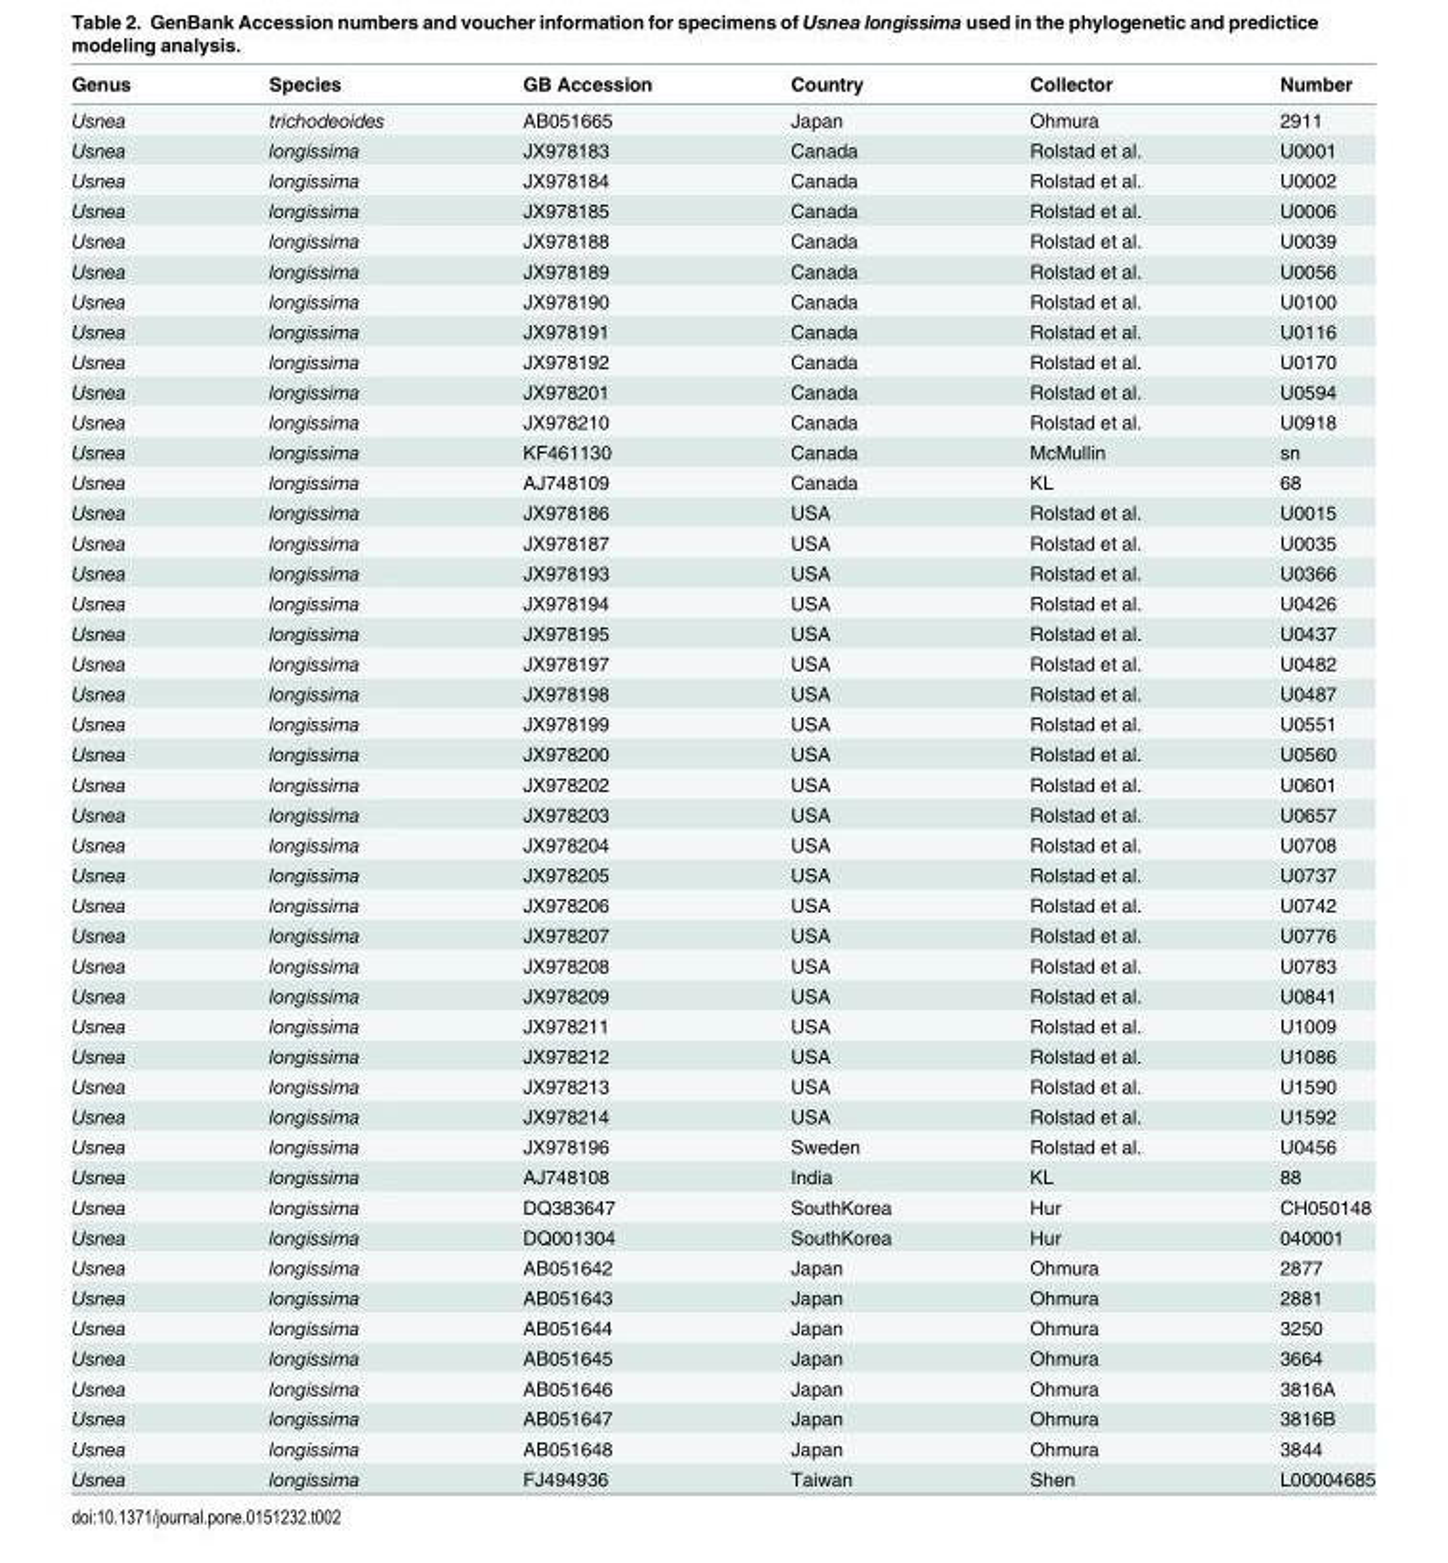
<table><thead><tr><td>Genus</td><td>Species</td><td>GB Accession</td><td>Country</td><td>Collector</td><td>Number</td></tr></thead><tbody><tr><td>Usnea</td><td>trichodeoides</td><td>AB051665</td><td>Japan</td><td>Ohmura</td><td>2911</td></tr><tr><td>Usnea</td><td>longissima</td><td>JX978183</td><td>Canada</td><td>Rolstad et al.</td><td>U0001</td></tr><tr><td>Usnea</td><td>longissima</td><td>JX978184</td><td>Canada</td><td>Rolstad et al.</td><td>U0002</td></tr><tr><td>Usnea</td><td>longissima</td><td>JX978185</td><td>Canada</td><td>Rolstad et al.</td><td>U0006</td></tr><tr><td>Usnea</td><td>longissima</td><td>JX978188</td><td>Canada</td><td>Rolstad et al.</td><td>U0039</td></tr><tr><td>Usnea</td><td>longissima</td><td>JX978189</td><td>Canada</td><td>Rolstad et al.</td><td>U0056</td></tr><tr><td>Usnea</td><td>longissima</td><td>JX978190</td><td>Canada</td><td>Rolstad et al.</td><td>U0100</td></tr><tr><td>Usnea</td><td>longissima</td><td>JX978191</td><td>Canada</td><td>Rolstad et al.</td><td>U0116</td></tr><tr><td>Usnea</td><td>longissima</td><td>JX978192</td><td>Canada</td><td>Rolstad et al.</td><td>U0170</td></tr><tr><td>Usnea</td><td>longissima</td><td>JX978201</td><td>Canada</td><td>Rolstad et al.</td><td>U0594</td></tr><tr><td>Usnea</td><td>longissima</td><td>JX978210</td><td>Canada</td><td>Rolstad et al.</td><td>U0918</td></tr><tr><td>Usnea</td><td>longissima</td><td>KF461130</td><td>Canada</td><td>McMullin</td><td>sn</td></tr><tr><td>Usnea</td><td>longissima</td><td>AJ748109</td><td>Canada</td><td>KL</td><td>68</td></tr><tr><td>Usnea</td><td>longissima</td><td>JX978186</td><td>USA</td><td>Rolstad et al.</td><td>U0015</td></tr><tr><td>Usnea</td><td>longissima</td><td>JX978187</td><td>USA</td><td>Rolstad et al.</td><td>U0035</td></tr><tr><td>Usnea</td><td>longissima</td><td>JX978193</td><td>USA</td><td>Rolstad et al.</td><td>U0366</td></tr><tr><td>Usnea</td><td>longissima</td><td>JX978194</td><td>USA</td><td>Rolstad et al.</td><td>U0426</td></tr><tr><td>Usnea</td><td>longissima</td><td>JX978195</td><td>USA</td><td>Rolstad et al.</td><td>U0437</td></tr><tr><td>Usnea</td><td>longissima</td><td>JX978197</td><td>USA</td><td>Rolstad et al.</td><td>U0482</td></tr><tr><td>Usnea</td><td>longissima</td><td>JX978198</td><td>USA</td><td>Rolstad et al.</td><td>U0487</td></tr><tr><td>Usnea</td><td>longissima</td><td>JX978199</td><td>USA</td><td>Rolstad et al.</td><td>U0551</td></tr><tr><td>Usnea</td><td>longissima</td><td>JX978200</td><td>USA</td><td>Rolstad et al.</td><td>U0560</td></tr><tr><td>Usnea</td><td>longissima</td><td>JX978202</td><td>USA</td><td>Rolstad et al.</td><td>U0601</td></tr><tr><td>Usnea</td><td>longissima</td><td>JX978203</td><td>USA</td><td>Rolstad et al.</td><td>U0657</td></tr><tr><td>Usnea</td><td>longissima</td><td>JX978204</td><td>USA</td><td>Rolstad et al.</td><td>U0708</td></tr><tr><td>Usnea</td><td>longissima</td><td>JX978205</td><td>USA</td><td>Rolstad et al.</td><td>U0737</td></tr><tr><td>Usnea</td><td>longissima</td><td>JX978206</td><td>USA</td><td>Rolstad et al.</td><td>U0742</td></tr><tr><td>Usnea</td><td>longissima</td><td>JX978207</td><td>USA</td><td>Rolstad et al.</td><td>U0776</td></tr><tr><td>Usnea</td><td>longissima</td><td>JX978208</td><td>USA</td><td>Rolstad et al.</td><td>U0783</td></tr><tr><td>Usnea</td><td>longissima</td><td>JX978209</td><td>USA</td><td>Rolstad et al.</td><td>U0841</td></tr><tr><td>Usnea</td><td>longissima</td><td>JX978211</td><td>USA</td><td>Rolstad et al.</td><td>U1009</td></tr><tr><td>Usnea</td><td>longissima</td><td>JX978212</td><td>USA</td><td>Rolstad et al.</td><td>U1086</td></tr><tr><td>Usnea</td><td>longissima</td><td>JX978213</td><td>USA</td><td>Rolstad et al.</td><td>U1590</td></tr><tr><td>Usnea</td><td>longissima</td><td>JX978214</td><td>USA</td><td>Rolstad et al.</td><td>U1592</td></tr><tr><td>Usnea</td><td>longissima</td><td>JX978196</td><td>Sweden</td><td>Rolstad et al.</td><td>U0456</td></tr><tr><td>Usnea</td><td>longissima</td><td>AJ748108</td><td>India</td><td>KL</td><td>88</td></tr><tr><td>Usnea</td><td>longissima</td><td>DQ383647</td><td>SouthKorea</td><td>Hur</td><td>CH050148</td></tr><tr><td>Usnea</td><td>longissima</td><td>DQ001304</td><td>SouthKorea</td><td>Hur</td><td>040001</td></tr><tr><td>Usnea</td><td>longissima</td><td>AB051642</td><td>Japan</td><td>Ohmura</td><td>2877</td></tr><tr><td>Usnea</td><td>longissima</td><td>AB051643</td><td>Japan</td><td>Ohmura</td><td>2881</td></tr><tr><td>Usnea</td><td>longissima</td><td>AB051644</td><td>Japan</td><td>Ohmura</td><td>3250</td></tr><tr><td>Usnea</td><td>longissima</td><td>AB051645</td><td>Japan</td><td>Ohmura</td><td>3664</td></tr><tr><td>Usnea</td><td>longissima</td><td>AB051646</td><td>Japan</td><td>Ohmura</td><td>3816A</td></tr><tr><td>Usnea</td><td>longissima</td><td>AB051647</td><td>Japan</td><td>Ohmura</td><td>3816B</td></tr><tr><td>Usnea</td><td>longissima</td><td>AB051648</td><td>Japan</td><td>Ohmura</td><td>3844</td></tr><tr><td>Usnea</td><td>longissima</td><td>FJ494936</td><td>Taiwan</td><td>Shen</td><td>L00004685</td></tr></tbody></table>